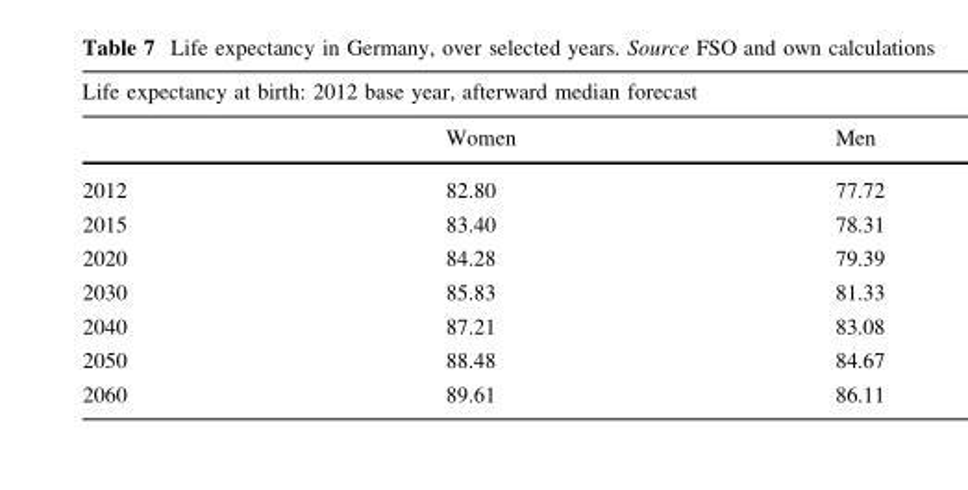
<table><thead><tr><td colspan="3">Life expectancy at birth: 2012 base year, afterward median forecast</td></tr><tr><td></td><td>Women</td><td>Men</td></tr></thead><tbody><tr><td>2012</td><td>82.80</td><td>77.72</td></tr><tr><td>2015</td><td>83.40</td><td>78.31</td></tr><tr><td>2020</td><td>84.28</td><td>79.39</td></tr><tr><td>2030</td><td>85.83</td><td>81.33</td></tr><tr><td>2040</td><td>87.21</td><td>83.08</td></tr><tr><td>2050</td><td>88.48</td><td>84.67</td></tr><tr><td>2060</td><td>89.61</td><td>86.11</td></tr></tbody></table>